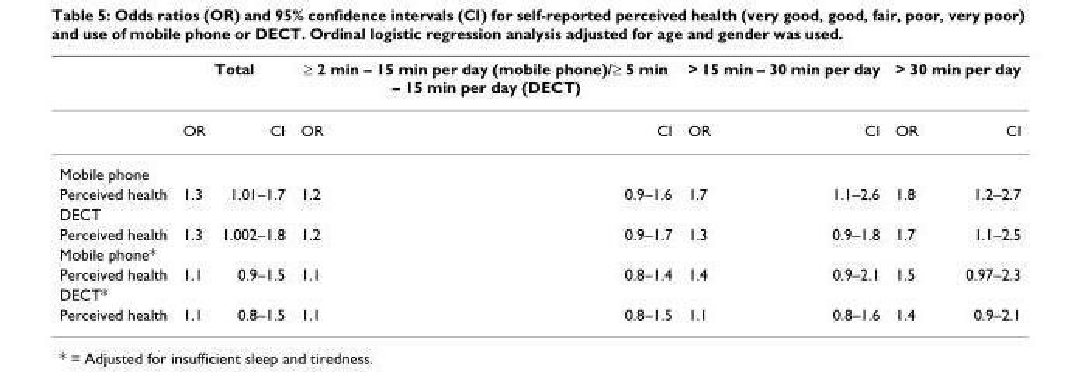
<table><thead><tr><td rowspan="2"></td><td colspan="2">Total</td><td colspan="2">≥ 2 min – 15 min per day (mobile phone)/≥ 5 min – 15 min per day (DECT)</td><td colspan="2">&gt; 15 min – 30 min per day</td><td colspan="2">&gt; 30 min per day</td></tr><tr><td>OR</td><td>CI</td><td>OR</td><td>CI</td><td>OR</td><td>CI</td><td>OR</td><td>CI</td></tr></thead><tbody><tr><td colspan="9">Mobile phone</td></tr><tr><td>Perceived health</td><td>1.3</td><td>1.01–1.7</td><td>1.2</td><td>0.9–1.6</td><td>1.7</td><td>1.1–2.6</td><td>1.8</td><td>1.2–2.7</td></tr><tr><td colspan="9">DECT</td></tr><tr><td>Perceived health</td><td>1.3</td><td>1.002–1.8</td><td>1.2</td><td>0.9–1.7</td><td>1.3</td><td>0.9–1.8</td><td>1.7</td><td>1.1–2.5</td></tr><tr><td colspan="9">Mobile phone*</td></tr><tr><td>Perceived health</td><td>1.1</td><td>0.9–1.5</td><td>1.1</td><td>0.8–1.4</td><td>1.4</td><td>0.9–2.1</td><td>1.5</td><td>0.97–2.3</td></tr><tr><td colspan="9">DECT*</td></tr><tr><td>Perceived health</td><td>1.1</td><td>0.8–1.5</td><td>1.1</td><td>0.8–1.5</td><td>1.1</td><td>0.8–1.6</td><td>1.4</td><td>0.9–2.1</td></tr></tbody></table>